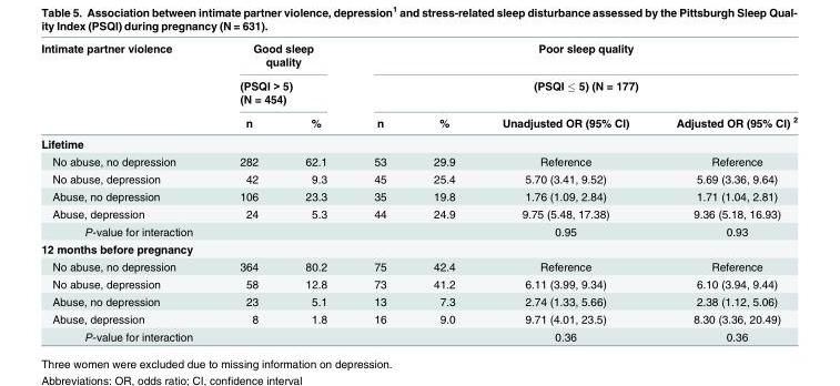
<table><thead><tr><td rowspan="3">Intimate partner violence</td><td rowspan="2" colspan="2">Good sleep quality (PSQI &gt; 5) (N = 454)</td><td rowspan="2" colspan="4">Poor sleep quality (PSQI ≤ 5) (N = 177)</td></tr><tr></tr><tr><td>n</td><td>%</td><td>n</td><td>%</td><td>Unadjusted OR (95% CI)</td><td>Adjusted OR (95% CI) <sup>2</sup></td></tr></thead><tbody><tr><td colspan="7">Lifetime</td></tr><tr><td>No abuse, no depression</td><td>282</td><td>62.1</td><td>53</td><td>29.9</td><td>Reference</td><td>Reference</td></tr><tr><td>No abuse, depression</td><td>42</td><td>9.3</td><td>45</td><td>25.4</td><td>5.70 (3.41, 9.52)</td><td>5.69 (3.36, 9.64)</td></tr><tr><td>Abuse, no depression</td><td>106</td><td>23.3</td><td>35</td><td>19.8</td><td>1.76 (1.09, 2.84)</td><td>1.71 (1.04, 2.81)</td></tr><tr><td>Abuse, depression</td><td>24</td><td>5.3</td><td>44</td><td>24.9</td><td>9.75 (5.48, 17.38)</td><td>9.36 (5.18, 16.93)</td></tr><tr><td>P-value for interaction</td><td></td><td></td><td></td><td></td><td>0.95</td><td>0.93</td></tr><tr><td colspan="7">12 months before pregnancy</td></tr><tr><td>No abuse, no depression</td><td>364</td><td>80.2</td><td>75</td><td>42.4</td><td>Reference</td><td>Reference</td></tr><tr><td>No abuse, depression</td><td>58</td><td>12.8</td><td>73</td><td>41.2</td><td>6.11 (3.99, 9.34)</td><td>6.10 (3.94, 9.44)</td></tr><tr><td>Abuse, no depression</td><td>23</td><td>5.1</td><td>13</td><td>7.3</td><td>2.74 (1.33, 5.66)</td><td>2.38 (1.12, 5.06)</td></tr><tr><td>Abuse, depression</td><td>8</td><td>1.8</td><td>16</td><td>9.0</td><td>9.71 (4.01, 23.5)</td><td>8.30 (3.36, 20.49)</td></tr><tr><td>P-value for interaction</td><td></td><td></td><td></td><td></td><td>0.36</td><td>0.36</td></tr></tbody></table>